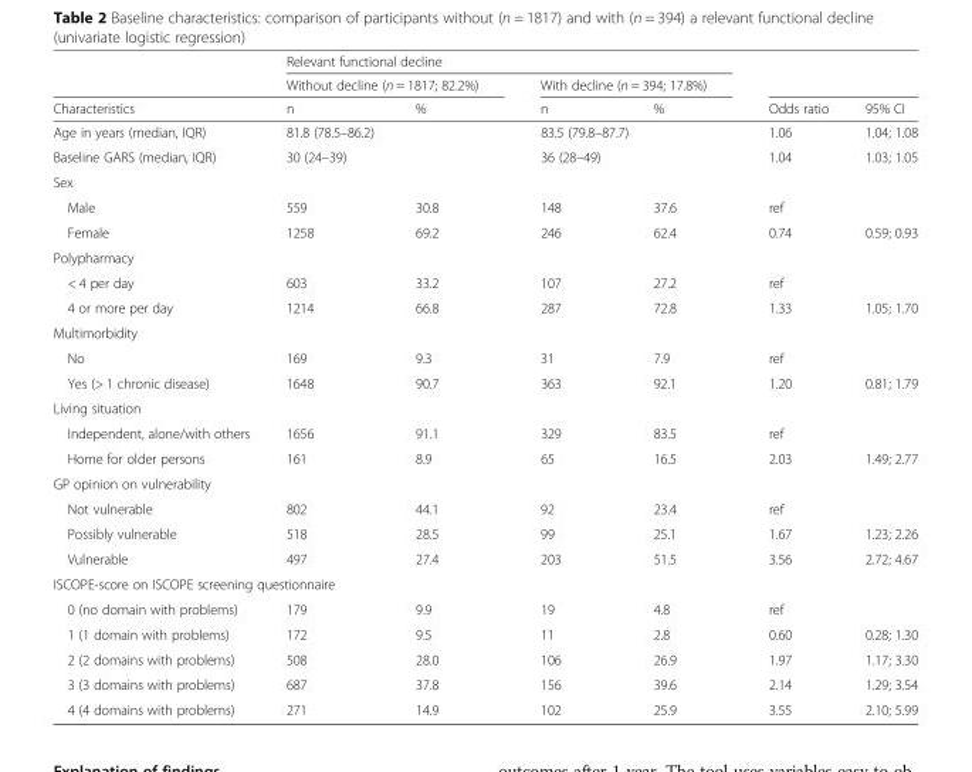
<table><thead><tr><td rowspan="3">Characteristics</td><td colspan="4">Relevant functional decline</td><td rowspan="3">Odds ratio</td><td rowspan="3">95% CI</td></tr><tr><td colspan="2">Without decline (n = 1817; 82.2%)</td><td colspan="2">With decline (n = 394; 17.8%)</td></tr><tr><td>n</td><td>%</td><td>n</td><td>%</td></tr></thead><tbody><tr><td>Age in years (median, IQR)</td><td colspan="2">81.8 (78.5–86.2)</td><td colspan="2">83.5 (79.8–87.7)</td><td>1.06</td><td>1.04; 1.08</td></tr><tr><td>Baseline GARS (median, IQR)</td><td colspan="2">30 (24–39)</td><td colspan="2">36 (28–49)</td><td>1.04</td><td>1.03; 1.05</td></tr><tr><td colspan="7">Sex</td></tr><tr><td>Male</td><td>559</td><td>30.8</td><td>148</td><td>37.6</td><td>ref</td><td></td></tr><tr><td>Female</td><td>1258</td><td>69.2</td><td>246</td><td>62.4</td><td>0.74</td><td>0.59; 0.93</td></tr><tr><td colspan="7">Polypharmacy</td></tr><tr><td>&lt; 4 per day</td><td>603</td><td>33.2</td><td>107</td><td>27.2</td><td>ref</td><td></td></tr><tr><td>4 or more per day</td><td>1214</td><td>66.8</td><td>287</td><td>72.8</td><td>1.33</td><td>1.05; 1.70</td></tr><tr><td colspan="7">Multimorbidity</td></tr><tr><td>No</td><td>169</td><td>9.3</td><td>31</td><td>7.9</td><td>ref</td><td></td></tr><tr><td>Yes (&gt; 1 chronic disease)</td><td>1648</td><td>90.7</td><td>363</td><td>92.1</td><td>1.20</td><td>0.81; 1.79</td></tr><tr><td colspan="7">Living situation</td></tr><tr><td>Independent, alone/with others</td><td>1656</td><td>91.1</td><td>329</td><td>83.5</td><td>ref</td><td></td></tr><tr><td>Home for older persons</td><td>161</td><td>8.9</td><td>65</td><td>16.5</td><td>2.03</td><td>1.49; 2.77</td></tr><tr><td colspan="7">GP opinion on vulnerability</td></tr><tr><td>Not vulnerable</td><td>802</td><td>44.1</td><td>92</td><td>23.4</td><td>ref</td><td></td></tr><tr><td>Possibly vulnerable</td><td>518</td><td>28.5</td><td>99</td><td>25.1</td><td>1.67</td><td>1.23; 2.26</td></tr><tr><td>Vulnerable</td><td>497</td><td>27.4</td><td>203</td><td>51.5</td><td>3.56</td><td>2.72; 4.67</td></tr><tr><td colspan="7">ISCOPE-score on ISCOPE screening questionnaire</td></tr><tr><td>0 (no domain with problems)</td><td>179</td><td>9.9</td><td>19</td><td>4.8</td><td>ref</td><td></td></tr><tr><td>1 (1 domain with problems)</td><td>172</td><td>9.5</td><td>11</td><td>2.8</td><td>0.60</td><td>0.28; 1.30</td></tr><tr><td>2 (2 domains with problems)</td><td>508</td><td>28.0</td><td>106</td><td>26.9</td><td>1.97</td><td>1.17; 3.30</td></tr><tr><td>3 (3 domains with problems)</td><td>687</td><td>37.8</td><td>156</td><td>39.6</td><td>2.14</td><td>1.29; 3.54</td></tr><tr><td>4 (4 domains with problems)</td><td>271</td><td>14.9</td><td>102</td><td>25.9</td><td>3.55</td><td>2.10; 5.99</td></tr></tbody></table>